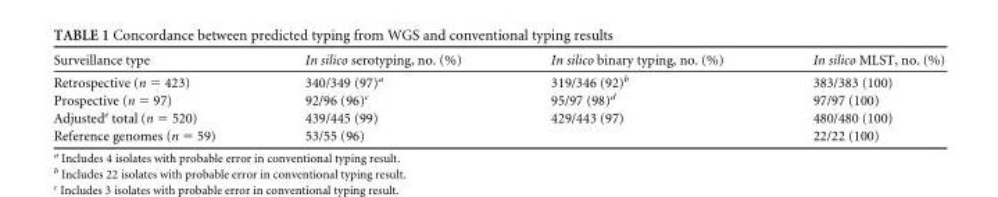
<table><thead><tr><td>Surveillance type</td><td>In silico serotyping, no. (%)</td><td>In silico binary typing, no. (%)</td><td>In silico MLST, no. (%)</td></tr></thead><tbody><tr><td>Retrospective (n = 423)</td><td>340/349 (97)<sup>a</sup></td><td>319/346 (92)<sup>b</sup></td><td>383/383 (100)</td></tr><tr><td>Prospective (n = 97)</td><td>92/96 (96)<sup>c</sup></td><td>95/97 (98)<sup>d</sup></td><td>97/97 (100)</td></tr><tr><td>Adjusted<sup>e</sup> total (n = 520)</td><td>439/445 (99)</td><td>429/443 (97)</td><td>480/480 (100)</td></tr><tr><td>Reference genomes (n = 59)</td><td>53/55 (96)</td><td></td><td>22/22 (100)</td></tr></tbody></table>